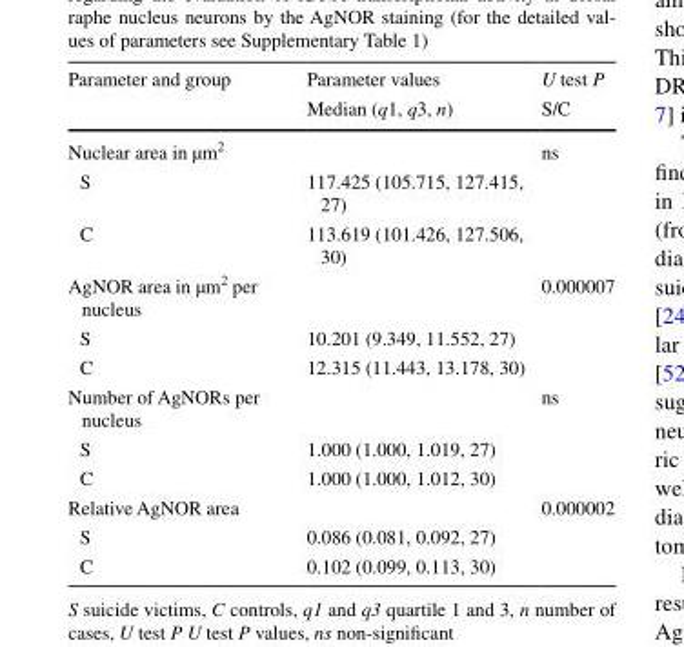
<table><thead><tr><td rowspan="2">Parameter and group</td><td rowspan="2">Parameter values Median (q1, q3, n)</td><td rowspan="2">U test P S/C</td></tr><tr></tr></thead><tbody><tr><td>Nuclear area in µm<sup>2</sup></td><td></td><td>ns</td></tr><tr><td>S</td><td>117.425 (105.715, 127.415, 27)</td><td></td></tr><tr><td>C</td><td>113.619 (101.426, 127.506, 30)</td><td></td></tr><tr><td>AgNOR area in µm<sup>2</sup> per nucleus</td><td></td><td>0.000007</td></tr><tr><td>S</td><td>10.201 (9.349, 11.552, 27)</td><td></td></tr><tr><td>C</td><td>12.315 (11.443, 13.178, 30)</td><td></td></tr><tr><td>Number of AgNORs per nucleus</td><td></td><td>ns</td></tr><tr><td>S</td><td>1.000 (1.000, 1.019, 27)</td><td></td></tr><tr><td>C</td><td>1.000 (1.000, 1.012, 30)</td><td></td></tr><tr><td>Relative AgNOR area</td><td></td><td>0.000002</td></tr><tr><td>S</td><td>0.086 (0.081, 0.092, 27)</td><td></td></tr><tr><td>C</td><td>0.102 (0.099, 0.113, 30)</td><td></td></tr></tbody></table>